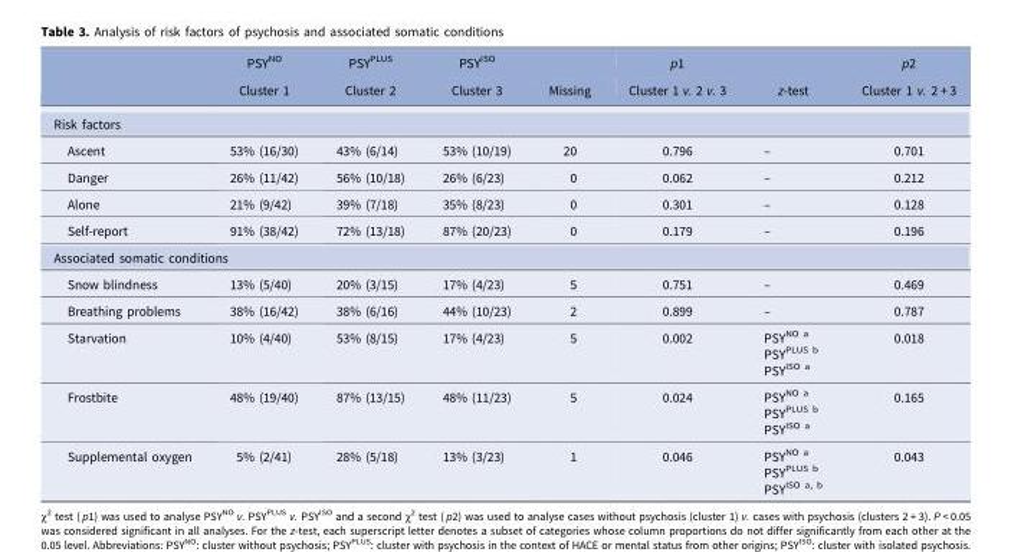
<table><thead><tr><td rowspan="2"></td><td rowspan="2">PSY<sup>NO</sup> Cluster 1</td><td rowspan="2">PSY<sup>PLUS</sup> Cluster 2</td><td rowspan="2">PSY<sup>ISO</sup> Cluster 3</td><td rowspan="2">Missing</td><td rowspan="2">p1 Cluster 1 v. 2 v. 3</td><td rowspan="2">z-test</td><td rowspan="2">p2 Cluster 1 v. 2 + 3</td></tr><tr></tr></thead><tbody><tr><td colspan="8">Risk factors</td></tr><tr><td>Ascent</td><td>53% (16/30)</td><td>43% (6/14)</td><td>53% (10/19)</td><td>20</td><td>0.796</td><td>–</td><td>0.701</td></tr><tr><td>Danger</td><td>26% (11/42)</td><td>56% (10/18)</td><td>26% (6/23)</td><td>0</td><td>0.062</td><td>–</td><td>0.212</td></tr><tr><td>Alone</td><td>21% (9/42)</td><td>39% (7/18)</td><td>35% (8/23)</td><td>0</td><td>0.301</td><td>–</td><td>0.128</td></tr><tr><td>Self-report</td><td>91% (38/42)</td><td>72% (13/18)</td><td>87% (20/23)</td><td>0</td><td>0.179</td><td>–</td><td>0.196</td></tr><tr><td colspan="8">Associated somatic conditions</td></tr><tr><td>Snow blindness</td><td>13% (5/40)</td><td>20% (3/15)</td><td>17% (4/23)</td><td>5</td><td>0.751</td><td>–</td><td>0.469</td></tr><tr><td>Breathing problems</td><td>38% (16/42)</td><td>38% (6/16)</td><td>44% (10/23)</td><td>2</td><td>0.899</td><td>–</td><td>0.787</td></tr><tr><td>Starvation</td><td>10% (4/40)</td><td>53% (8/15)</td><td>17% (4/23)</td><td>5</td><td>0.002</td><td>PSY<sup>NO a</sup> PSY<sup>PLUS b</sup> PSY<sup>ISO a</sup></td><td>0.018</td></tr><tr><td>Frostbite</td><td>48% (19/40)</td><td>87% (13/15)</td><td>48% (11/23)</td><td>5</td><td>0.024</td><td>PSY<sup>NO a</sup> PSY<sup>PLUS b</sup> PSY<sup>ISO a</sup></td><td>0.165</td></tr><tr><td>Supplemental oxygen</td><td>5% (2/41)</td><td>28% (5/18)</td><td>13% (3/23)</td><td>1</td><td>0.046</td><td>PSY<sup>NO a</sup> PSY<sup>PLUS b</sup> PSY<sup>ISO a, b</sup></td><td>0.043</td></tr></tbody></table>